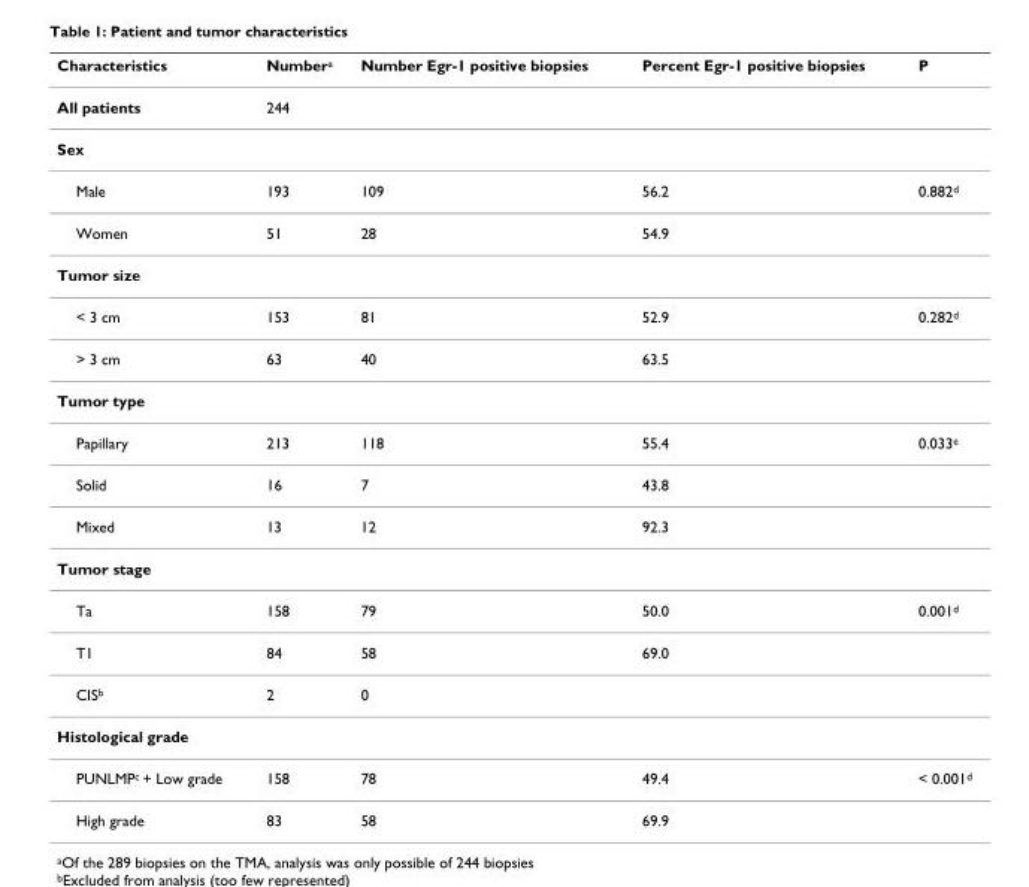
<table><thead><tr><td>Characteristics</td><td>Number<sup>a</sup></td><td>Number Egr-1 positive biopsies</td><td>Percent Egr-1 positive biopsies</td><td>P</td></tr></thead><tbody><tr><td>All patients</td><td>244</td><td></td><td></td><td></td></tr><tr><td colspan="5">Sex</td></tr><tr><td>Male</td><td>193</td><td>109</td><td>56.2</td><td>0.882<sup>d</sup></td></tr><tr><td>Women</td><td>51</td><td>28</td><td>54.9</td><td></td></tr><tr><td colspan="5">Tumor size</td></tr><tr><td>&lt; 3 cm</td><td>153</td><td>81</td><td>52.9</td><td>0.282<sup>d</sup></td></tr><tr><td>&gt; 3 cm</td><td>63</td><td>40</td><td>63.5</td><td></td></tr><tr><td colspan="5">Tumor type</td></tr><tr><td>Papillary</td><td>213</td><td>118</td><td>55.4</td><td>0.033<sup>e</sup></td></tr><tr><td>Solid</td><td>16</td><td>7</td><td>43.8</td><td></td></tr><tr><td>Mixed</td><td>13</td><td>12</td><td>92.3</td><td></td></tr><tr><td colspan="5">Tumor stage</td></tr><tr><td>Ta</td><td>158</td><td>79</td><td>50.0</td><td>0.001<sup>d</sup></td></tr><tr><td>T1</td><td>84</td><td>58</td><td>69.0</td><td></td></tr><tr><td>CIS<sup>b</sup></td><td>2</td><td>0</td><td></td><td></td></tr><tr><td colspan="5">Histological grade</td></tr><tr><td>PUNLMP<sup>c</sup> + Low grade</td><td>158</td><td>78</td><td>49.4</td><td>&lt; 0.001<sup>d</sup></td></tr><tr><td>High grade</td><td>83</td><td>58</td><td>69.9</td><td></td></tr></tbody></table>